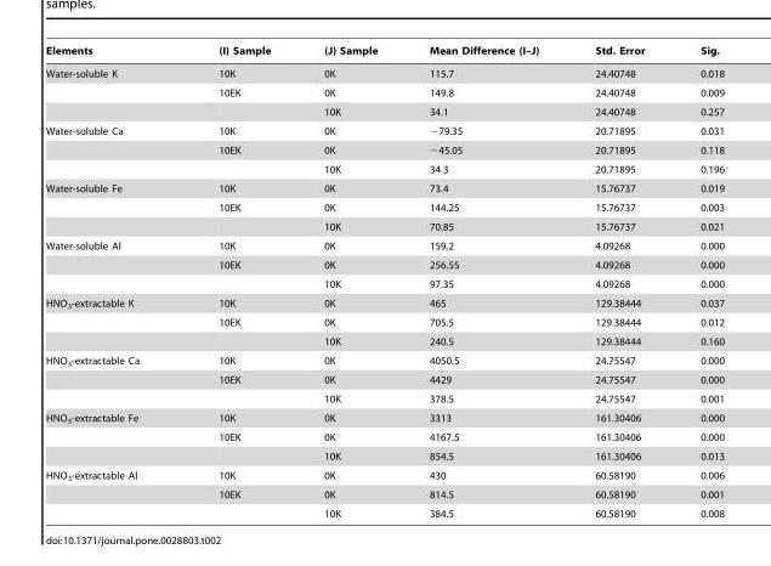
<table><thead><tr><td>Elements</td><td>(I) Sample</td><td>(J) Sample</td><td>Mean Difference (I–J)</td><td>Std. Error</td><td>Sig.</td></tr></thead><tbody><tr><td rowspan="3">Water-soluble K</td><td>10K</td><td>0K</td><td>115.7</td><td>24.40748</td><td>0.018</td></tr><tr><td>10EK</td><td>0K</td><td>149.8</td><td>24.40748</td><td>0.009</td></tr><tr><td></td><td>10K</td><td>34.1</td><td>24.40748</td><td>0.257</td></tr><tr><td rowspan="3">Water-soluble Ca</td><td>10K</td><td>0K</td><td>−79.35</td><td>20.71895</td><td>0.031</td></tr><tr><td>10EK</td><td>0K</td><td>−45.05</td><td>20.71895</td><td>0.118</td></tr><tr><td></td><td>10K</td><td>34.3</td><td>20.71895</td><td>0.196</td></tr><tr><td rowspan="3">Water-soluble Fe</td><td>10K</td><td>0K</td><td>73.4</td><td>15.76737</td><td>0.019</td></tr><tr><td>10EK</td><td>0K</td><td>144.25</td><td>15.76737</td><td>0.003</td></tr><tr><td></td><td>10K</td><td>70.85</td><td>15.76737</td><td>0.021</td></tr><tr><td rowspan="3">Water-soluble Al</td><td>10K</td><td>0K</td><td>159.2</td><td>4.09268</td><td>0.000</td></tr><tr><td>10EK</td><td>0K</td><td>256.55</td><td>4.09268</td><td>0.000</td></tr><tr><td></td><td>10K</td><td>97.35</td><td>4.09268</td><td>0.000</td></tr><tr><td rowspan="3">HNO<sub>3</sub>-extractable K</td><td>10K</td><td>0K</td><td>465</td><td>129.38444</td><td>0.037</td></tr><tr><td>10EK</td><td>0K</td><td>705.5</td><td>129.38444</td><td>0.012</td></tr><tr><td></td><td>10K</td><td>240.5</td><td>129.38444</td><td>0.160</td></tr><tr><td rowspan="3">HNO<sub>3</sub>-extractable Ca</td><td>10K</td><td>0K</td><td>4050.5</td><td>24.75547</td><td>0.000</td></tr><tr><td>10EK</td><td>0K</td><td>4429</td><td>24.75547</td><td>0.000</td></tr><tr><td></td><td>10K</td><td>378.5</td><td>24.75547</td><td>0.001</td></tr><tr><td rowspan="3">HNO<sub>3</sub>-extractable Fe</td><td>10K</td><td>0K</td><td>3313</td><td>161.30406</td><td>0.000</td></tr><tr><td>10EK</td><td>0K</td><td>4167.5</td><td>161.30406</td><td>0.000</td></tr><tr><td></td><td>10K</td><td>854.5</td><td>161.30406</td><td>0.013</td></tr><tr><td rowspan="3">HNO<sub>3</sub>-extractable Al</td><td>10K</td><td>0K</td><td>430</td><td>60.58190</td><td>0.006</td></tr><tr><td>10EK</td><td>0K</td><td>814.5</td><td>60.58190</td><td>0.001</td></tr><tr><td></td><td>10K</td><td>384.5</td><td>60.58190</td><td>0.008</td></tr></tbody></table>